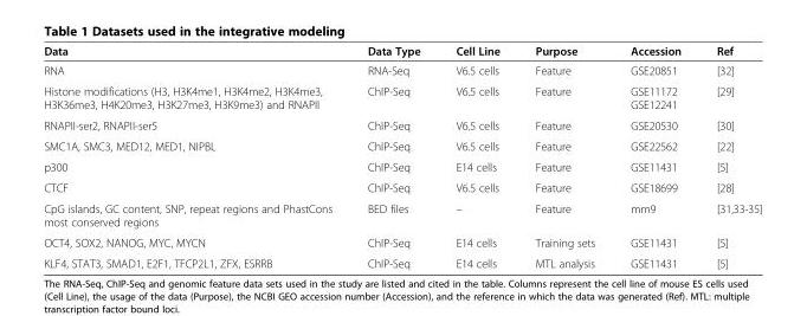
<table><thead><tr><td>Data</td><td>Data Type</td><td>Cell Line</td><td>Purpose</td><td>Accession</td><td>Ref</td></tr></thead><tbody><tr><td>RNA</td><td>RNA-Seq</td><td>V6.5 cells</td><td>Feature</td><td>GSE20851</td><td>[32]</td></tr><tr><td>Histone modifications (H3, H3K4me1, H3K4me2, H3K4me3, H3K36me3, H4K20me3, H3K27me3, H3K9me3) and RNAPII</td><td>ChIP-Seq</td><td>V6.5 cells</td><td>Feature</td><td>GSE11172 GSE12241</td><td>[29]</td></tr><tr><td>RNAPII-ser2, RNAPII-ser5</td><td>ChIP-Seq</td><td>V6.5 cells</td><td>Feature</td><td>GSE20530</td><td>[30]</td></tr><tr><td>SMC1A, SMC3, MED12, MED1, NIPBL</td><td>ChIP-Seq</td><td>V6.5 cells</td><td>Feature</td><td>GSE22562</td><td>[22]</td></tr><tr><td>p300</td><td>ChIP-Seq</td><td>E14 cells</td><td>Feature</td><td>GSE11431</td><td>[5]</td></tr><tr><td>CTCF</td><td>ChIP-Seq</td><td>V6.5 cells</td><td>Feature</td><td>GSE18699</td><td>[28]</td></tr><tr><td>CpG islands, GC content, SNP, repeat regions and PhastCons most conserved regions</td><td>BED files</td><td>–</td><td>Feature</td><td>mm9</td><td>[31,33-35]</td></tr><tr><td>OCT4, SOX2, NANOG, MYC, MYCN</td><td>ChIP-Seq</td><td>E14 cells</td><td>Training sets</td><td>GSE11431</td><td>[5]</td></tr><tr><td>KLF4, STAT3, SMAD1, E2F1, TFCP2L1, ZFX, ESRRB</td><td>ChIP-Seq</td><td>E14 cells</td><td>MTL analysis</td><td>GSE11431</td><td>[5]</td></tr></tbody></table>